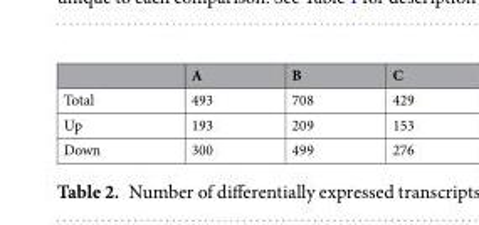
<table><thead><tr><td></td><td>A</td><td>B</td><td>C</td></tr></thead><tbody><tr><td>Total</td><td>493</td><td>708</td><td>429</td></tr><tr><td>Up</td><td>193</td><td>209</td><td>153</td></tr><tr><td>Down</td><td>300</td><td>499</td><td>276</td></tr></tbody></table>